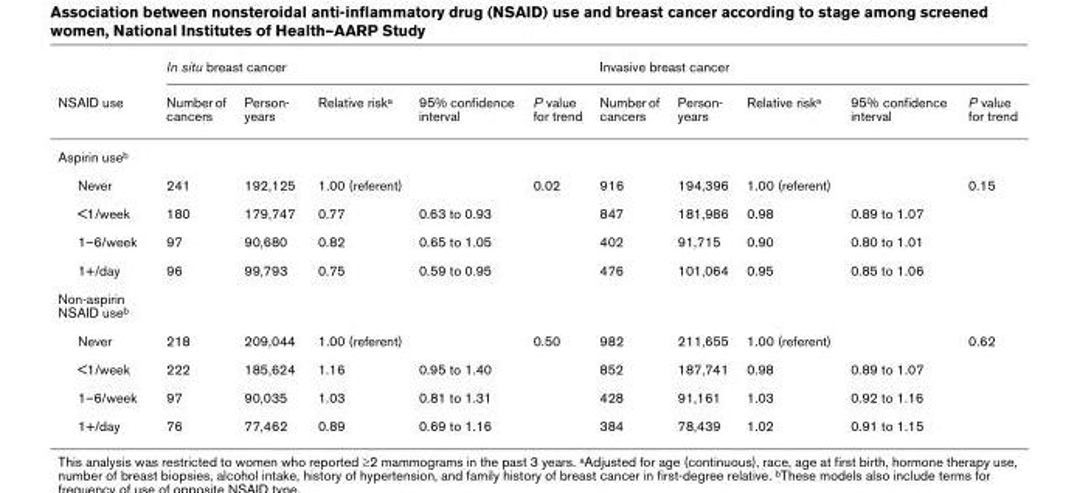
<table><thead><tr><td rowspan="2">NSAID use</td><td colspan="5">In situ breast cancer</td><td colspan="5">Invasive breast cancer</td></tr><tr><td>Number of cancers</td><td>Person- years</td><td>Relative risk<sup>a</sup></td><td>95% confidence interval</td><td>P value for trend</td><td>Number of cancers</td><td>Person- years</td><td>Relative risk<sup>a</sup></td><td>95% confidence interval</td><td>P value for trend</td></tr></thead><tbody><tr><td colspan="11">Aspirin use<sup>b</sup></td></tr><tr><td>Never</td><td>241</td><td>192,125</td><td>1.00 (referent)</td><td></td><td>0.02</td><td>916</td><td>194,396</td><td>1.00 (referent)</td><td></td><td>0.15</td></tr><tr><td>&lt;1/week</td><td>180</td><td>179,747</td><td>0.77</td><td>0.63 to 0.93</td><td></td><td>847</td><td>181,986</td><td>0.98</td><td>0.89 to 1.07</td><td></td></tr><tr><td>1–6/week</td><td>97</td><td>90,680</td><td>0.82</td><td>0.65 to 1.05</td><td></td><td>402</td><td>91,715</td><td>0.90</td><td>0.80 to 1.01</td><td></td></tr><tr><td>1+/day</td><td>96</td><td>99,793</td><td>0.75</td><td>0.59 to 0.95</td><td></td><td>476</td><td>101,064</td><td>0.95</td><td>0.85 to 1.06</td><td></td></tr><tr><td colspan="11">Non-aspirin NSAID use<sup>b</sup></td></tr><tr><td>Never</td><td>218</td><td>209,044</td><td>1.00 (referent)</td><td></td><td>0.50</td><td>982</td><td>211,655</td><td>1.00 (referent)</td><td></td><td>0.62</td></tr><tr><td>&lt;1/week</td><td>222</td><td>185,624</td><td>1.16</td><td>0.95 to 1.40</td><td></td><td>852</td><td>187,741</td><td>0.98</td><td>0.89 to 1.07</td><td></td></tr><tr><td>1–6/week</td><td>97</td><td>90,035</td><td>1.03</td><td>0.81 to 1.31</td><td></td><td>428</td><td>91,161</td><td>1.03</td><td>0.92 to 1.16</td><td></td></tr><tr><td>1+/day</td><td>76</td><td>77,462</td><td>0.89</td><td>0.69 to 1.16</td><td></td><td>384</td><td>78,439</td><td>1.02</td><td>0.91 to 1.15</td><td></td></tr></tbody></table>